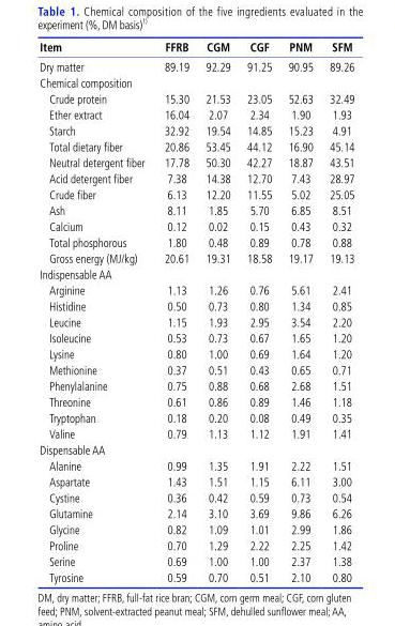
<table><thead><tr><td>Item</td><td>FFRB</td><td>CGM</td><td>CGF</td><td>PNM</td><td>SFM</td></tr></thead><tbody><tr><td>Dry matter</td><td>89.19</td><td>92.29</td><td>91.25</td><td>90.95</td><td>89.26</td></tr><tr><td colspan="6">Chemical composition</td></tr><tr><td>Crude protein</td><td>15.30</td><td>21.53</td><td>23.05</td><td>52.63</td><td>32.49</td></tr><tr><td>Ether extract</td><td>16.04</td><td>2.07</td><td>2.34</td><td>1.90</td><td>1.93</td></tr><tr><td>Starch</td><td>32.92</td><td>19.54</td><td>14.85</td><td>15.23</td><td>4.91</td></tr><tr><td>Total dietary fiber</td><td>20.86</td><td>53.45</td><td>44.12</td><td>16.90</td><td>45.14</td></tr><tr><td>Neutral detergent fiber</td><td>17.78</td><td>50.30</td><td>42.27</td><td>18.87</td><td>43.51</td></tr><tr><td>Acid detergent fiber</td><td>7.38</td><td>14.38</td><td>12.70</td><td>7.43</td><td>28.97</td></tr><tr><td>Crude fiber</td><td>6.13</td><td>12.20</td><td>11.55</td><td>5.02</td><td>25.05</td></tr><tr><td>Ash</td><td>8.11</td><td>1.85</td><td>5.70</td><td>6.85</td><td>8.51</td></tr><tr><td>Calcium</td><td>0.12</td><td>0.02</td><td>0.15</td><td>0.43</td><td>0.32</td></tr><tr><td>Total phosphorous</td><td>1.80</td><td>0.48</td><td>0.89</td><td>0.78</td><td>0.88</td></tr><tr><td>Gross energy (MJ/kg)</td><td>20.61</td><td>19.31</td><td>18.58</td><td>19.17</td><td>19.13</td></tr><tr><td colspan="6">Indispensable AA</td></tr><tr><td>Arginine</td><td>1.13</td><td>1.26</td><td>0.76</td><td>5.61</td><td>2.41</td></tr><tr><td>Histidine</td><td>0.50</td><td>0.73</td><td>0.80</td><td>1.34</td><td>0.85</td></tr><tr><td>Leucine</td><td>1.15</td><td>1.93</td><td>2.95</td><td>3.54</td><td>2.20</td></tr><tr><td>Isoleucine</td><td>0.53</td><td>0.73</td><td>0.67</td><td>1.65</td><td>1.20</td></tr><tr><td>Lysine</td><td>0.80</td><td>1.00</td><td>0.69</td><td>1.64</td><td>1.20</td></tr><tr><td>Methionine</td><td>0.37</td><td>0.51</td><td>0.43</td><td>0.65</td><td>0.71</td></tr><tr><td>Phenylalanine</td><td>0.75</td><td>0.88</td><td>0.68</td><td>2.68</td><td>1.51</td></tr><tr><td>Threonine</td><td>0.61</td><td>0.86</td><td>0.89</td><td>1.46</td><td>1.18</td></tr><tr><td>Tryptophan</td><td>0.18</td><td>0.20</td><td>0.08</td><td>0.49</td><td>0.35</td></tr><tr><td>Valine</td><td>0.79</td><td>1.13</td><td>1.12</td><td>1.91</td><td>1.41</td></tr><tr><td colspan="6">Dispensable AA</td></tr><tr><td>Alanine</td><td>0.99</td><td>1.35</td><td>1.91</td><td>2.22</td><td>1.51</td></tr><tr><td>Aspartate</td><td>1.43</td><td>1.51</td><td>1.15</td><td>6.11</td><td>3.00</td></tr><tr><td>Cystine</td><td>0.36</td><td>0.42</td><td>0.59</td><td>0.73</td><td>0.54</td></tr><tr><td>Glutamine</td><td>2.14</td><td>3.10</td><td>3.69</td><td>9.86</td><td>6.26</td></tr><tr><td>Glycine</td><td>0.82</td><td>1.09</td><td>1.01</td><td>2.99</td><td>1.86</td></tr><tr><td>Proline</td><td>0.70</td><td>1.29</td><td>2.22</td><td>2.25</td><td>1.42</td></tr><tr><td>Serine</td><td>0.69</td><td>1.00</td><td>1.00</td><td>2.37</td><td>1.38</td></tr><tr><td>Tyrosine</td><td>0.59</td><td>0.70</td><td>0.51</td><td>2.10</td><td>0.80</td></tr></tbody></table>